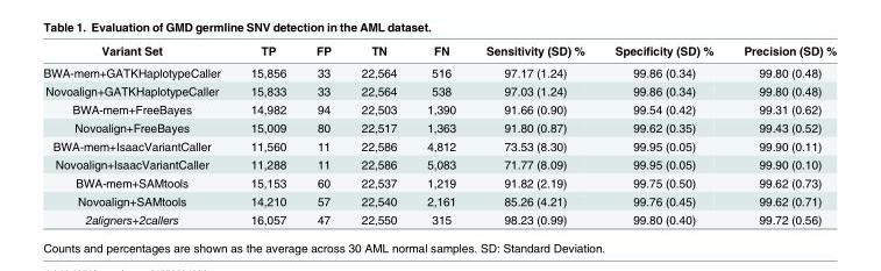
<table><thead><tr><td>Variant Set</td><td>TP</td><td>FP</td><td>TN</td><td>FN</td><td>Sensitivity (SD) %</td><td>Specificity (SD) %</td><td>Precision (SD) %</td></tr></thead><tbody><tr><td>BWA-mem+GATKHaplotypeCaller</td><td>15,856</td><td>33</td><td>22,564</td><td>516</td><td>97.17 (1.24)</td><td>99.86 (0.34)</td><td>99.80 (0.48)</td></tr><tr><td>Novoalign+GATKHaplotypeCaller</td><td>15,833</td><td>33</td><td>22,564</td><td>538</td><td>97.03 (1.24)</td><td>99.86 (0.34)</td><td>99.80 (0.48)</td></tr><tr><td>BWA-mem+FreeBayes</td><td>14,982</td><td>94</td><td>22,503</td><td>1,390</td><td>91.66 (0.90)</td><td>99.54 (0.42)</td><td>99.31 (0.62)</td></tr><tr><td>Novoalign+FreeBayes</td><td>15,009</td><td>80</td><td>22,517</td><td>1,363</td><td>91.80 (0.87)</td><td>99.62 (0.35)</td><td>99.43 (0.52)</td></tr><tr><td>BWA-mem+IsaacVariantCaller</td><td>11,560</td><td>11</td><td>22,586</td><td>4,812</td><td>73.53 (8.30)</td><td>99.95 (0.05)</td><td>99.90 (0.11)</td></tr><tr><td>Novoalign+IsaacVariantCaller</td><td>11,288</td><td>11</td><td>22,586</td><td>5,083</td><td>71.77 (8.09)</td><td>99.95 (0.05)</td><td>99.90 (0.10)</td></tr><tr><td>BWA-mem+SAMtools</td><td>15,153</td><td>60</td><td>22,537</td><td>1,219</td><td>91.82 (2.19)</td><td>99.75 (0.50)</td><td>99.62 (0.73)</td></tr><tr><td>Novoalign+SAMtools</td><td>14,210</td><td>57</td><td>22,540</td><td>2,161</td><td>85.26 (4.21)</td><td>99.76 (0.45)</td><td>99.62 (0.71)</td></tr><tr><td>2aligners+2callers</td><td>16,057</td><td>47</td><td>22,550</td><td>315</td><td>98.23 (0.99)</td><td>99.80 (0.40)</td><td>99.72 (0.56)</td></tr></tbody></table>